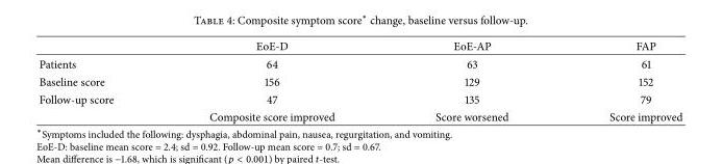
<table><thead><tr><td></td><td>EoE-D</td><td>EoE-AP</td><td>FAP</td></tr></thead><tbody><tr><td>Patients</td><td>64</td><td>63</td><td>61</td></tr><tr><td>Baseline score</td><td>156</td><td>129</td><td>152</td></tr><tr><td rowspan="2">Follow-up score</td><td>47</td><td>135</td><td>79</td></tr><tr><td>Composite score improved</td><td>Score worsened</td><td>Score improved</td></tr></tbody></table>